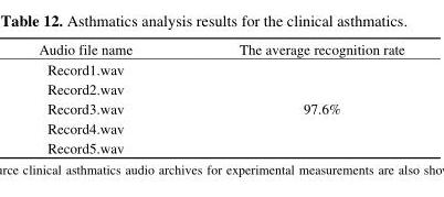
<table><thead><tr><td>Audio file name</td><td>The average recognition rate</td></tr></thead><tbody><tr><td>Record1.wav</td><td rowspan="5">97.6%</td></tr><tr><td>Record2.wav</td></tr><tr><td>Record3.wav</td></tr><tr><td>Record4.wav</td></tr><tr><td>Record5.wav</td></tr></tbody></table>